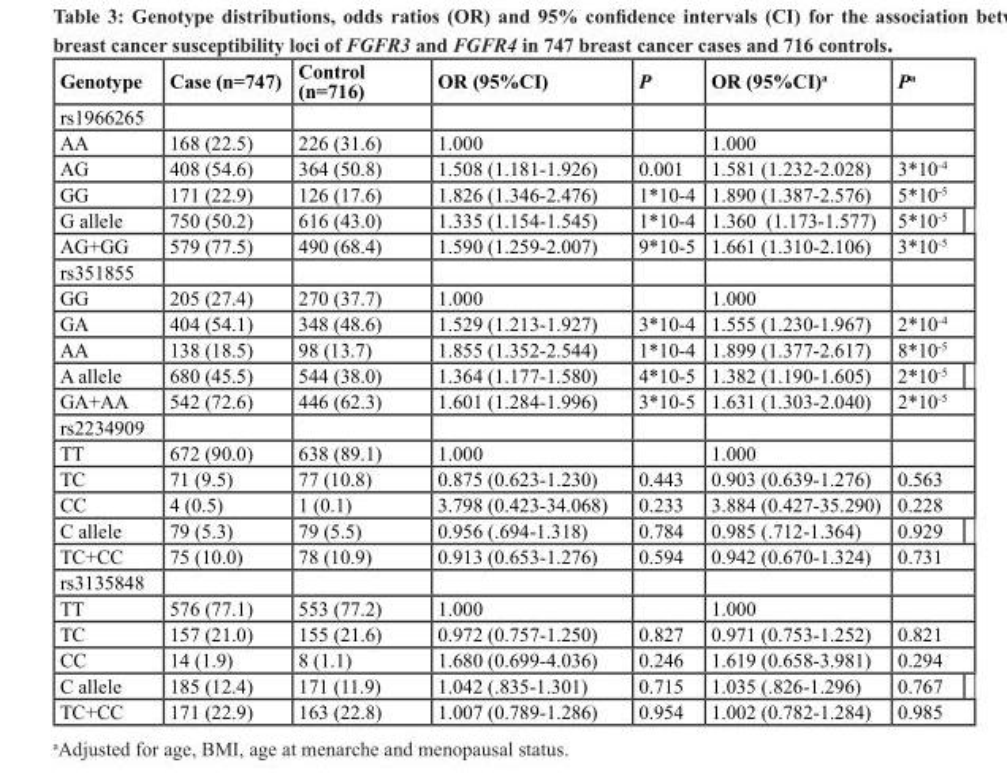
<table><thead><tr><td>Genotype</td><td>Case (n=747)</td><td>Control (n=716)</td><td>OR (95%CI)</td><td>P</td><td>OR (95%CI)<sup>a</sup></td><td>P<sup>a</sup></td></tr></thead><tbody><tr><td colspan="7">rs1966265</td></tr><tr><td>AA</td><td>168 (22.5)</td><td>226 (31.6)</td><td>1.000</td><td></td><td>1.000</td><td></td></tr><tr><td>AG</td><td>408 (54.6)</td><td>364 (50.8)</td><td>1.508 (1.181-1.926)</td><td>0.001</td><td>1.581 (1.232-2.028)</td><td>3*10<sup>-4</sup></td></tr><tr><td>GG</td><td>171 (22.9)</td><td>126 (17.6)</td><td>1.826 (1.346-2.476)</td><td>1*10-4</td><td>1.890 (1.387-2.576)</td><td>5*10<sup>-5</sup></td></tr><tr><td>G allele</td><td>750 (50.2)</td><td>616 (43.0)</td><td>1.335 (1.154-1.545)</td><td>1*10-4</td><td>1.360 (1.173-1.577)</td><td>5*10<sup>-5</sup></td></tr><tr><td>AG+GG</td><td>579 (77.5)</td><td>490 (68.4)</td><td>1.590 (1.259-2.007)</td><td>9*10-5</td><td>1.661 (1.310-2.106)</td><td>3*10<sup>-5</sup></td></tr><tr><td colspan="7">rs351855</td></tr><tr><td>GG</td><td>205 (27.4)</td><td>270 (37.7)</td><td>1.000</td><td></td><td>1.000</td><td></td></tr><tr><td>GA</td><td>404 (54.1)</td><td>348 (48.6)</td><td>1.529 (1.213-1.927)</td><td>3*10-4</td><td>1.555 (1.230-1.967)</td><td>2*10<sup>-4</sup></td></tr><tr><td>AA</td><td>138 (18.5)</td><td>98 (13.7)</td><td>1.855 (1.352-2.544)</td><td>1*10-4</td><td>1.899 (1.377-2.617)</td><td>8*10<sup>-5</sup></td></tr><tr><td>A allele</td><td>680 (45.5)</td><td>544 (38.0)</td><td>1.364 (1.177-1.580)</td><td>4*10-5</td><td>1.382 (1.190-1.605)</td><td>2*10<sup>-5</sup></td></tr><tr><td>GA+AA</td><td>542 (72.6)</td><td>446 (62.3)</td><td>1.601 (1.284-1.996)</td><td>3*10-5</td><td>1.631 (1.303-2.040)</td><td>2*10<sup>-5</sup></td></tr><tr><td colspan="7">rs2234909</td></tr><tr><td>TT</td><td>672 (90.0)</td><td>638 (89.1)</td><td>1.000</td><td></td><td>1.000</td><td></td></tr><tr><td>TC</td><td>71 (9.5)</td><td>77 (10.8)</td><td>0.875 (0.623-1.230)</td><td>0.443</td><td>0.903 (0.639-1.276)</td><td>0.563</td></tr><tr><td>CC</td><td>4 (0.5)</td><td>1 (0.1)</td><td>3.798 (0.423-34.068)</td><td>0.233</td><td>3.884 (0.427-35.290)</td><td>0.228</td></tr><tr><td>C allele</td><td>79 (5.3)</td><td>79 (5.5)</td><td>0.956 (.694-1.318)</td><td>0.784</td><td>0.985 (.712-1.364)</td><td>0.929</td></tr><tr><td>TC+CC</td><td>75 (10.0)</td><td>78 (10.9)</td><td>0.913 (0.653-1.276)</td><td>0.594</td><td>0.942 (0.670-1.324)</td><td>0.731</td></tr><tr><td colspan="7">rs3135848</td></tr><tr><td>TT</td><td>576 (77.1)</td><td>553 (77.2)</td><td>1.000</td><td></td><td>1.000</td><td></td></tr><tr><td>TC</td><td>157 (21.0)</td><td>155 (21.6)</td><td>0.972 (0.757-1.250)</td><td>0.827</td><td>0.971 (0.753-1.252)</td><td>0.821</td></tr><tr><td>CC</td><td>14 (1.9)</td><td>8 (1.1)</td><td>1.680 (0.699-4.036)</td><td>0.246</td><td>1.619 (0.658-3.981)</td><td>0.294</td></tr><tr><td>C allele</td><td>185 (12.4)</td><td>171 (11.9)</td><td>1.042 (.835-1.301)</td><td>0.715</td><td>1.035 (.826-1.296)</td><td>0.767</td></tr><tr><td>TC+CC</td><td>171 (22.9)</td><td>163 (22.8)</td><td>1.007 (0.789-1.286)</td><td>0.954</td><td>1.002 (0.782-1.284)</td><td>0.985</td></tr></tbody></table>